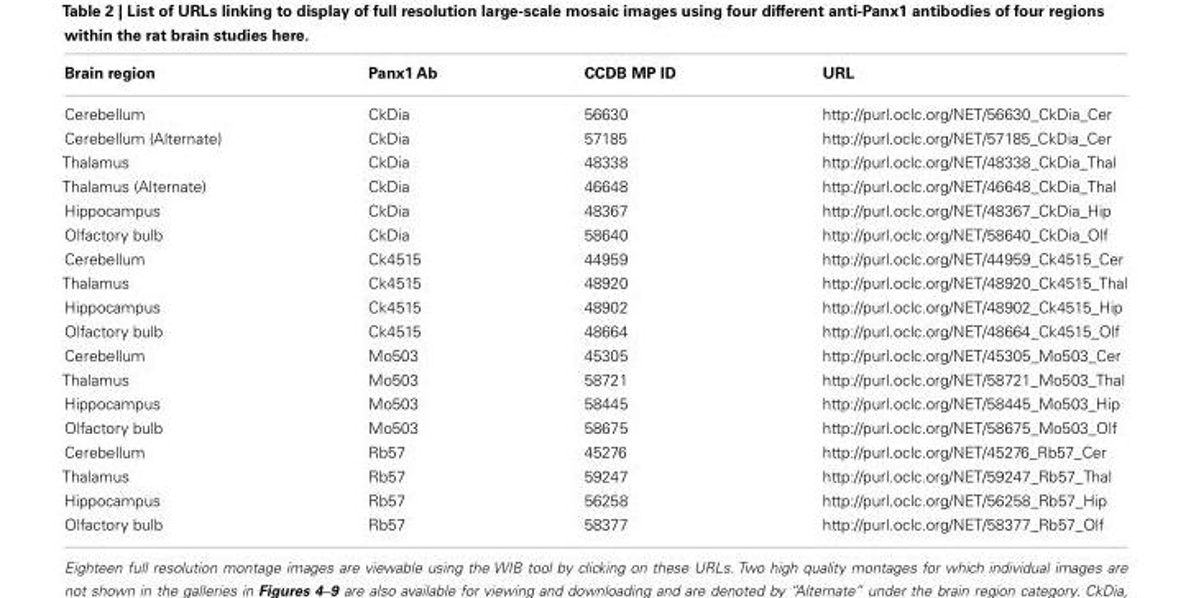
<table><thead><tr><td>Brain region</td><td>Panx1 Ab</td><td>CCDB MP ID</td><td>URL</td></tr></thead><tbody><tr><td>Cerebellum</td><td>CkDia</td><td>56630</td><td>http://purl.oclc.org/NET/56630_CkDia_Cer</td></tr><tr><td>Cerebellum (Alternate)</td><td>CkDia</td><td>57185</td><td>http://purl.oclc.org/NET/57185_CkDia_Cer</td></tr><tr><td>Thalamus</td><td>CkDia</td><td>48338</td><td>http://purl.oclc.org/NET/48338_CkDia_Thal</td></tr><tr><td>Thalamus (Alternate)</td><td>CkDia</td><td>46648</td><td>http://purl.oclc.org/NET/46648_CkDia_Thal</td></tr><tr><td>Hippocampus</td><td>CkDia</td><td>48367</td><td>http://purl.oclc.org/NET/48367_CkDia_Hip</td></tr><tr><td>Olfactory bulb</td><td>CkDia</td><td>58640</td><td>http://purl.oclc.org/NET/58640_CkDia_Olf</td></tr><tr><td>Cerebellum</td><td>Ck4515</td><td>44959</td><td>http://purl.oclc.org/NET/44959_Ck4515_Cer</td></tr><tr><td>Thalamus</td><td>Ck4515</td><td>48920</td><td>http://purl.oclc.org/NET/48920_Ck4515_Thal</td></tr><tr><td>Hippocampus</td><td>Ck4515</td><td>48902</td><td>http://purl.oclc.org/NET/48902_Ck4515_Hip</td></tr><tr><td>Olfactory bulb</td><td>Ck4515</td><td>48664</td><td>http://purl.oclc.org/NET/48664_Ck4515_Olf</td></tr><tr><td>Cerebellum</td><td>Mo503</td><td>45305</td><td>http://purl.oclc.org/NET/45305_Mo503_Cer</td></tr><tr><td>Thalamus</td><td>Mo503</td><td>58721</td><td>http://purl.oclc.org/NET/58721_Mo503_Thal</td></tr><tr><td>Hippocampus</td><td>Mo503</td><td>58445</td><td>http://purl.oclc.org/NET/58445_Mo503_Hip</td></tr><tr><td>Olfactory bulb</td><td>Mo503</td><td>58675</td><td>http://purl.oclc.org/NET/58675_Mo503_Olf</td></tr><tr><td>Cerebellum</td><td>Rb57</td><td>45276</td><td>http://purl.oclc.org/NET/45276_Rb57_Cer</td></tr><tr><td>Thalamus</td><td>Rb57</td><td>59247</td><td>http://purl.oclc.org/NET/59247_Rb57_Thal</td></tr><tr><td>Hippocampus</td><td>Rb57</td><td>56258</td><td>http://purl.oclc.org/NET/56258_Rb57_Hip</td></tr><tr><td>Olfactory bulb</td><td>Rb57</td><td>58377</td><td>http://purl.oclc.org/NET/58377_Rb57_Olf</td></tr></tbody></table>